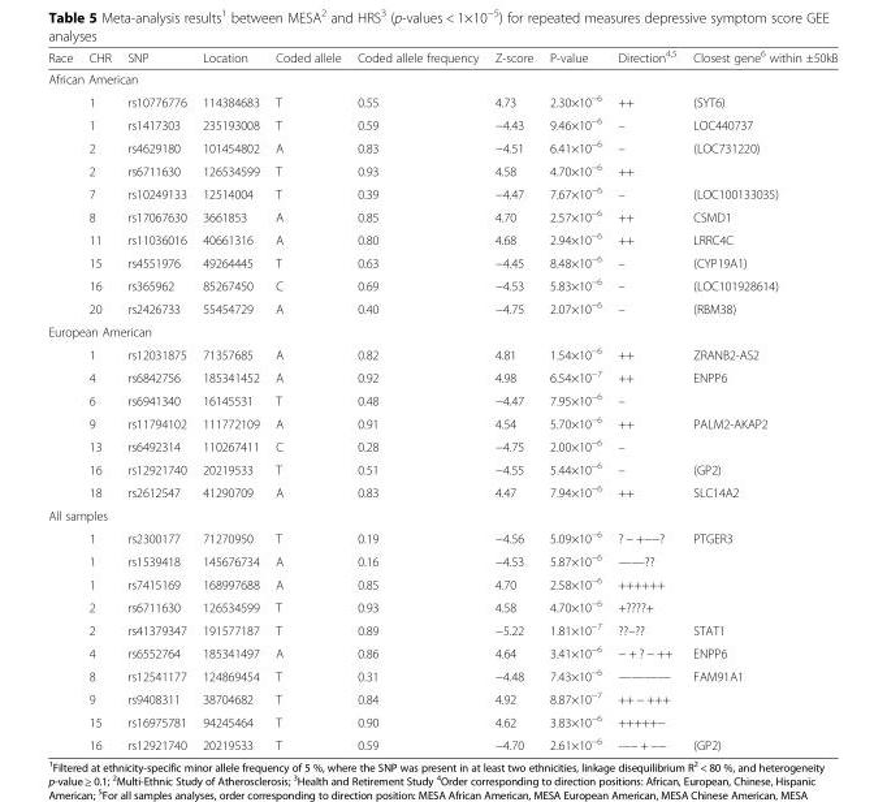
<table><thead><tr><td>Race</td><td>CHR</td><td>SNP</td><td>Location</td><td>Coded allele</td><td>Coded allele frequency</td><td>Z-score</td><td>P-value</td><td>Direction<sup>4,5</sup></td><td>Closest gene<sup>6</sup> within ±50kB</td></tr></thead><tbody><tr><td colspan="10">African American</td></tr><tr><td></td><td>1</td><td>rs10776776</td><td>114384683</td><td>T</td><td>0.55</td><td>4.73</td><td>2.30×10<sup>−6</sup></td><td>++</td><td>(SYT6)</td></tr><tr><td></td><td>1</td><td>rs1417303</td><td>235193008</td><td>T</td><td>0.59</td><td>−4.43</td><td>9.46×10<sup>−6</sup></td><td>–</td><td>LOC440737</td></tr><tr><td></td><td>2</td><td>rs4629180</td><td>101454802</td><td>A</td><td>0.83</td><td>−4.51</td><td>6.41×10<sup>−6</sup></td><td>–</td><td>(LOC731220)</td></tr><tr><td></td><td>2</td><td>rs6711630</td><td>126534599</td><td>T</td><td>0.93</td><td>4.58</td><td>4.70×10<sup>−6</sup></td><td>++</td><td></td></tr><tr><td></td><td>7</td><td>rs10249133</td><td>12514004</td><td>T</td><td>0.39</td><td>−4.47</td><td>7.67×10<sup>−6</sup></td><td>–</td><td>(LOC100133035)</td></tr><tr><td></td><td>8</td><td>rs17067630</td><td>3661853</td><td>A</td><td>0.85</td><td>4.70</td><td>2.57×10<sup>−6</sup></td><td>++</td><td>CSMD1</td></tr><tr><td></td><td>11</td><td>rs11036016</td><td>40661316</td><td>A</td><td>0.80</td><td>4.68</td><td>2.94×10<sup>−6</sup></td><td>++</td><td>LRRC4C</td></tr><tr><td></td><td>15</td><td>rs4551976</td><td>49264445</td><td>T</td><td>0.63</td><td>−4.45</td><td>8.48×10<sup>−6</sup></td><td>–</td><td>(CYP19A1)</td></tr><tr><td></td><td>16</td><td>rs365962</td><td>85267450</td><td>C</td><td>0.69</td><td>−4.53</td><td>5.83×10<sup>−6</sup></td><td>–</td><td>(LOC101928614)</td></tr><tr><td></td><td>20</td><td>rs2426733</td><td>55454729</td><td>A</td><td>0.40</td><td>−4.75</td><td>2.07×10<sup>−6</sup></td><td>–</td><td>(RBM38)</td></tr><tr><td colspan="10">European American</td></tr><tr><td></td><td>1</td><td>rs12031875</td><td>71357685</td><td>A</td><td>0.82</td><td>4.81</td><td>1.54×10<sup>−6</sup></td><td>++</td><td>ZRANB2-AS2</td></tr><tr><td></td><td>4</td><td>rs6842756</td><td>185341452</td><td>A</td><td>0.92</td><td>4.98</td><td>6.54×10<sup>−7</sup></td><td>++</td><td>ENPP6</td></tr><tr><td></td><td>6</td><td>rs6941340</td><td>16145531</td><td>T</td><td>0.48</td><td>−4.47</td><td>7.95×10<sup>−6</sup></td><td>–</td><td></td></tr><tr><td></td><td>9</td><td>rs11794102</td><td>111772109</td><td>A</td><td>0.91</td><td>4.54</td><td>5.70×10<sup>−6</sup></td><td>++</td><td>PALM2-AKAP2</td></tr><tr><td></td><td>13</td><td>rs6492314</td><td>110267411</td><td>C</td><td>0.28</td><td>−4.75</td><td>2.00×10<sup>−6</sup></td><td>–</td><td></td></tr><tr><td></td><td>16</td><td>rs12921740</td><td>20219533</td><td>T</td><td>0.51</td><td>−4.55</td><td>5.44×10<sup>−6</sup></td><td>–</td><td>(GP2)</td></tr><tr><td></td><td>18</td><td>rs2612547</td><td>41290709</td><td>A</td><td>0.83</td><td>4.47</td><td>7.94×10<sup>−6</sup></td><td>++</td><td>SLC14A2</td></tr><tr><td colspan="10">All samples</td></tr><tr><td></td><td>1</td><td>rs2300177</td><td>71270950</td><td>T</td><td>0.19</td><td>−4.56</td><td>5.09×10<sup>−6</sup></td><td>? − +−−?</td><td>PTGER3</td></tr><tr><td></td><td>1</td><td>rs1539418</td><td>145676734</td><td>A</td><td>0.16</td><td>−4.53</td><td>5.87×10<sup>−6</sup></td><td>——??</td><td></td></tr><tr><td></td><td>1</td><td>rs7415169</td><td>168997688</td><td>A</td><td>0.85</td><td>4.70</td><td>2.58×10<sup>−6</sup></td><td>++++++</td><td></td></tr><tr><td></td><td>2</td><td>rs6711630</td><td>126534599</td><td>T</td><td>0.93</td><td>4.58</td><td>4.70×10<sup>−6</sup></td><td>+????+</td><td></td></tr><tr><td></td><td>2</td><td>rs41379347</td><td>191577187</td><td>T</td><td>0.89</td><td>−5.22</td><td>1.81×10<sup>−7</sup></td><td>??–??</td><td>STAT1</td></tr><tr><td></td><td>4</td><td>rs6552764</td><td>185341497</td><td>A</td><td>0.86</td><td>4.64</td><td>3.41×10<sup>−6</sup></td><td>− + ? − ++</td><td>ENPP6</td></tr><tr><td></td><td>8</td><td>rs12541177</td><td>124869454</td><td>T</td><td>0.31</td><td>−4.48</td><td>7.43×10<sup>−6</sup></td><td>————</td><td>FAM91A1</td></tr><tr><td></td><td>9</td><td>rs9408311</td><td>38704682</td><td>T</td><td>0.84</td><td>4.92</td><td>8.87×10<sup>−7</sup></td><td>++ − +++</td><td></td></tr><tr><td></td><td>15</td><td>rs16975781</td><td>94245464</td><td>T</td><td>0.90</td><td>4.62</td><td>3.83×10<sup>−6</sup></td><td>+++++−</td><td></td></tr><tr><td></td><td>16</td><td>rs12921740</td><td>20219533</td><td>T</td><td>0.59</td><td>−4.70</td><td>2.61×10<sup>−6</sup></td><td>-−− + −−</td><td>(GP2)</td></tr></tbody></table>